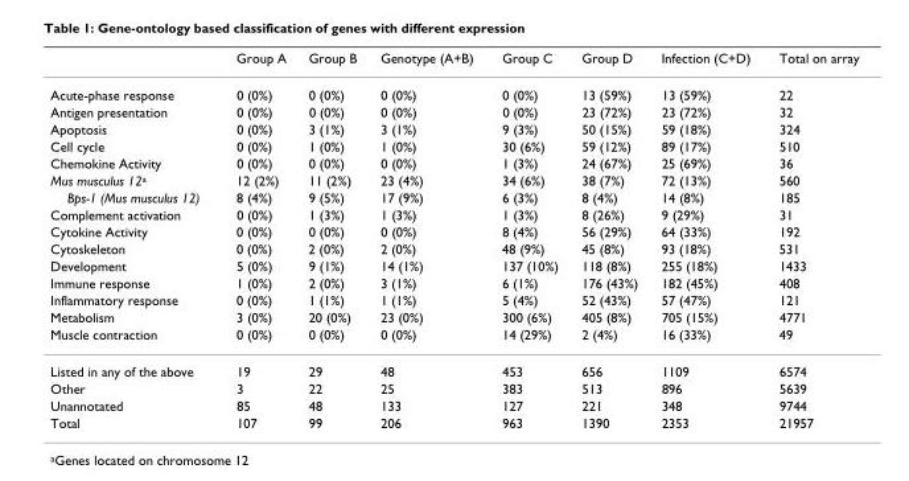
<table><thead><tr><td></td><td>Group A</td><td>Group B</td><td>Genotype (A+B)</td><td>Group C</td><td>Group D</td><td>Infection (C+D)</td><td>Total on array</td></tr></thead><tbody><tr><td>Acute-phase response</td><td>0 (0%)</td><td>0 (0%)</td><td>0 (0%)</td><td>0 (0%)</td><td>13 (59%)</td><td>13 (59%)</td><td>22</td></tr><tr><td>Antigen presentation</td><td>0 (0%)</td><td>0 (0%)</td><td>0 (0%)</td><td>0 (0%)</td><td>23 (72%)</td><td>23 (72%)</td><td>32</td></tr><tr><td>Apoptosis</td><td>0 (0%)</td><td>3 (1%)</td><td>3 (1%)</td><td>9 (3%)</td><td>50 (15%)</td><td>59 (18%)</td><td>324</td></tr><tr><td>Cell cycle</td><td>0 (0%)</td><td>1 (0%)</td><td>1 (0%)</td><td>30 (6%)</td><td>59 (12%)</td><td>89 (17%)</td><td>510</td></tr><tr><td>Chemokine Activity</td><td>0 (0%)</td><td>0 (0%)</td><td>0 (0%)</td><td>1 (3%)</td><td>24 (67%)</td><td>25 (69%)</td><td>36</td></tr><tr><td>Mus musculus 12<sup>a</sup></td><td>12 (2%)</td><td>11 (2%)</td><td>23 (4%)</td><td>34 (6%)</td><td>38 (7%)</td><td>72 (13%)</td><td>560</td></tr><tr><td>Bps-1 (Mus musculus 12)</td><td>8 (4%)</td><td>9 (5%)</td><td>17 (9%)</td><td>6 (3%)</td><td>8 (4%)</td><td>14 (8%)</td><td>185</td></tr><tr><td>Complement activation</td><td>0 (0%)</td><td>1 (3%)</td><td>1 (3%)</td><td>1 (3%)</td><td>8 (26%)</td><td>9 (29%)</td><td>31</td></tr><tr><td>Cytokine Activity</td><td>0 (0%)</td><td>0 (0%)</td><td>0 (0%)</td><td>8 (4%)</td><td>56 (29%)</td><td>64 (33%)</td><td>192</td></tr><tr><td>Cytoskeleton</td><td>0 (0%)</td><td>2 (0%)</td><td>2 (0%)</td><td>48 (9%)</td><td>45 (8%)</td><td>93 (18%)</td><td>531</td></tr><tr><td>Development</td><td>5 (0%)</td><td>9 (1%)</td><td>14 (1%)</td><td>137 (10%)</td><td>118 (8%)</td><td>255 (18%)</td><td>1433</td></tr><tr><td>Immune response</td><td>1 (0%)</td><td>2 (0%)</td><td>3 (1%)</td><td>6 (1%)</td><td>176 (43%)</td><td>182 (45%)</td><td>408</td></tr><tr><td>Inflammatory response</td><td>0 (0%)</td><td>1 (1%)</td><td>1 (1%)</td><td>5 (4%)</td><td>52 (43%)</td><td>57 (47%)</td><td>121</td></tr><tr><td>Metabolism</td><td>3 (0%)</td><td>20 (0%)</td><td>23 (0%)</td><td>300 (6%)</td><td>405 (8%)</td><td>705 (15%)</td><td>4771</td></tr><tr><td>Muscle contraction</td><td>0 (0%)</td><td>0 (0%)</td><td>0 (0%)</td><td>14 (29%)</td><td>2 (4%)</td><td>16 (33%)</td><td>49</td></tr><tr><td>Listed in any of the above</td><td>19</td><td>29</td><td>48</td><td>453</td><td>656</td><td>1109</td><td>6574</td></tr><tr><td>Other</td><td>3</td><td>22</td><td>25</td><td>383</td><td>513</td><td>896</td><td>5639</td></tr><tr><td>Unannotated</td><td>85</td><td>48</td><td>133</td><td>127</td><td>221</td><td>348</td><td>9744</td></tr><tr><td>Total</td><td>107</td><td>99</td><td>206</td><td>963</td><td>1390</td><td>2353</td><td>21957</td></tr></tbody></table>